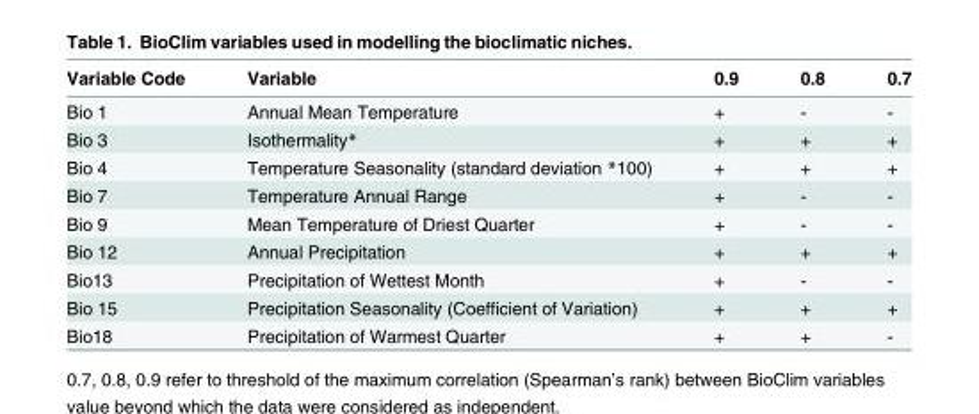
<table><thead><tr><td>Variable Code</td><td>Variable</td><td>0.9</td><td>0.8</td><td>0.7</td></tr></thead><tbody><tr><td>Bio 1</td><td>Annual Mean Temperature</td><td>+</td><td>-</td><td>-</td></tr><tr><td>Bio 3</td><td>Isothermality*</td><td>+</td><td>+</td><td>+</td></tr><tr><td>Bio 4</td><td>Temperature Seasonality (standard deviation *100)</td><td>+</td><td>+</td><td>+</td></tr><tr><td>Bio 7</td><td>Temperature Annual Range</td><td>+</td><td>-</td><td>-</td></tr><tr><td>Bio 9</td><td>Mean Temperature of Driest Quarter</td><td>+</td><td>-</td><td>-</td></tr><tr><td>Bio 12</td><td>Annual Precipitation</td><td>+</td><td>+</td><td>+</td></tr><tr><td>Bio13</td><td>Precipitation of Wettest Month</td><td>+</td><td>-</td><td>-</td></tr><tr><td>Bio 15</td><td>Precipitation Seasonality (Coefficient of Variation)</td><td>+</td><td>+</td><td>+</td></tr><tr><td>Bio18</td><td>Precipitation of Warmest Quarter</td><td>+</td><td>+</td><td>-</td></tr></tbody></table>